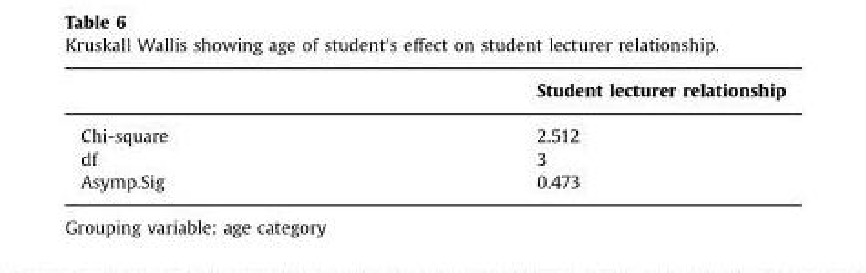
<table><thead><tr><td></td><td>Student lecturer relationship</td></tr></thead><tbody><tr><td>Chi-square</td><td>2.512</td></tr><tr><td>df</td><td>3</td></tr><tr><td>Asymp.Sig</td><td>0.473</td></tr></tbody></table>